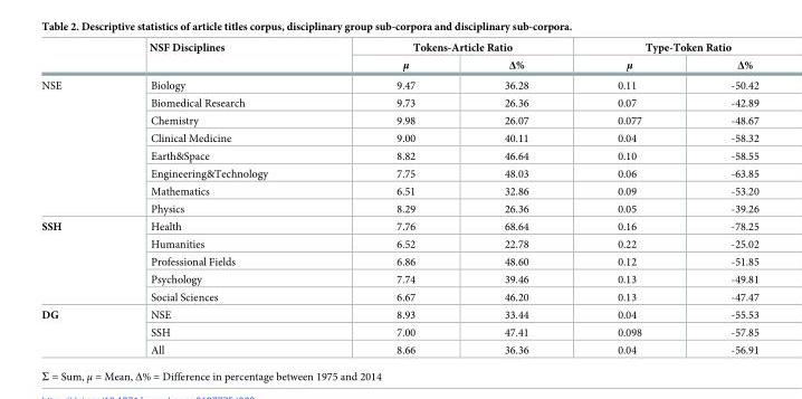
<table><thead><tr><td rowspan="2"></td><td rowspan="2">NSF Disciplines</td><td colspan="2">Tokens-Article Ratio</td><td colspan="2">Type-Token Ratio</td></tr><tr><td>μ</td><td>Δ%</td><td>μ</td><td>Δ%</td></tr></thead><tbody><tr><td rowspan="8">NSE</td><td>Biology</td><td>9.47</td><td>36.28</td><td>0.11</td><td>-50.42</td></tr><tr><td>Biomedical Research</td><td>9.73</td><td>26.36</td><td>0.07</td><td>-42.89</td></tr><tr><td>Chemistry</td><td>9.98</td><td>26.07</td><td>0.077</td><td>-48.67</td></tr><tr><td>Clinical Medicine</td><td>9.00</td><td>40.11</td><td>0.04</td><td>-58.32</td></tr><tr><td>Earth&amp;Space</td><td>8.82</td><td>46.64</td><td>0.10</td><td>-58.55</td></tr><tr><td>Engineering&amp;Technology</td><td>7.75</td><td>48.03</td><td>0.06</td><td>-63.85</td></tr><tr><td>Mathematics</td><td>6.51</td><td>32.86</td><td>0.09</td><td>-53.20</td></tr><tr><td>Physics</td><td>8.29</td><td>26.36</td><td>0.05</td><td>-39.26</td></tr><tr><td rowspan="5">SSH</td><td>Health</td><td>7.76</td><td>68.64</td><td>0.16</td><td>-78.25</td></tr><tr><td>Humanities</td><td>6.52</td><td>22.78</td><td>0.22</td><td>-25.02</td></tr><tr><td>Professional Fields</td><td>6.86</td><td>48.60</td><td>0.12</td><td>-51.85</td></tr><tr><td>Psychology</td><td>7.74</td><td>39.46</td><td>0.13</td><td>-49.81</td></tr><tr><td>Social Sciences</td><td>6.67</td><td>46.20</td><td>0.13</td><td>-47.47</td></tr><tr><td rowspan="3">DG</td><td>NSE</td><td>8.93</td><td>33.44</td><td>0.04</td><td>-55.53</td></tr><tr><td>SSH</td><td>7.00</td><td>47.41</td><td>0.098</td><td>-57.85</td></tr><tr><td>All</td><td>8.66</td><td>36.36</td><td>0.04</td><td>-56.91</td></tr></tbody></table>